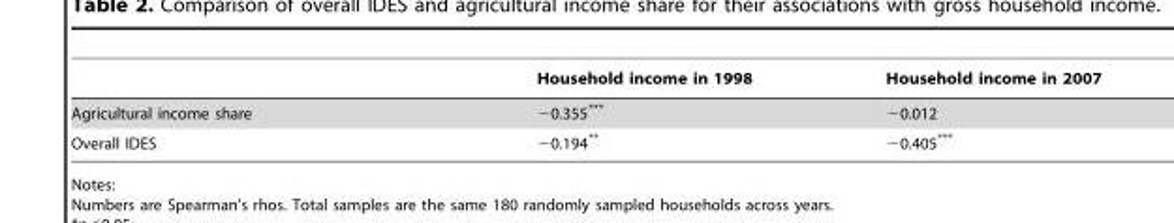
<table><thead><tr><td></td><td>Household income in 1998</td><td>Household income in 2007</td></tr></thead><tbody><tr><td>Agricultural income share</td><td>−0.355***</td><td>−0.012</td></tr><tr><td>Overall IDES</td><td>−0.194**</td><td>−0.405***</td></tr></tbody></table>